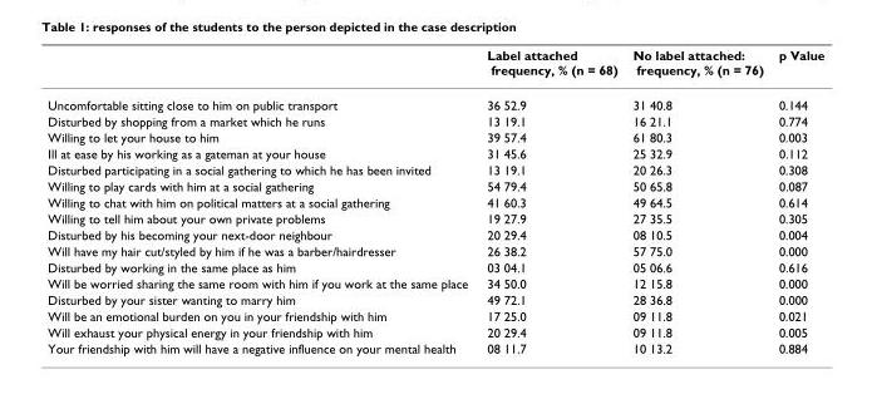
<table><thead><tr><td></td><td>Label attached frequency, % (n = 68)</td><td>No label attached: frequency, % (n = 76)</td><td>p Value</td></tr></thead><tbody><tr><td>Uncomfortable sitting close to him on public transport</td><td>36 52.9</td><td>31 40.8</td><td>0.144</td></tr><tr><td>Disturbed by shopping from a market which he runs</td><td>13 19.1</td><td>16 21.1</td><td>0.774</td></tr><tr><td>Willing to let your house to him</td><td>39 57.4</td><td>61 80.3</td><td>0.003</td></tr><tr><td>Ill at ease by his working as a gateman at your house</td><td>31 45.6</td><td>25 32.9</td><td>0.112</td></tr><tr><td>Disturbed participating in a social gathering to which he has been invited</td><td>13 19.1</td><td>20 26.3</td><td>0.308</td></tr><tr><td>Willing to play cards with him at a social gathering</td><td>54 79.4</td><td>50 65.8</td><td>0.087</td></tr><tr><td>Willing to chat with him on political matters at a social gathering</td><td>41 60.3</td><td>49 64.5</td><td>0.614</td></tr><tr><td>Willing to tell him about your own private problems</td><td>19 27.9</td><td>27 35.5</td><td>0.305</td></tr><tr><td>Disturbed by his becoming your next-door neighbour</td><td>20 29.4</td><td>08 10.5</td><td>0.004</td></tr><tr><td>Will have my hair cut/styled by him if he was a barber/hairdresser</td><td>26 38.2</td><td>57 75.0</td><td>0.000</td></tr><tr><td>Disturbed by working in the same place as him</td><td>03 04.1</td><td>05 06.6</td><td>0.616</td></tr><tr><td>Will be worried sharing the same room with him if you work at the same place</td><td>34 50.0</td><td>12 15.8</td><td>0.000</td></tr><tr><td>Disturbed by your sister wanting to marry him</td><td>49 72.1</td><td>28 36.8</td><td>0.000</td></tr><tr><td>Will be an emotional burden on you in your friendship with him</td><td>17 25.0</td><td>09 11.8</td><td>0.021</td></tr><tr><td>Will exhaust your physical energy in your friendship with him</td><td>20 29.4</td><td>09 11.8</td><td>0.005</td></tr><tr><td>Your friendship with him will have a negative influence on your mental health</td><td>08 11.7</td><td>10 13.2</td><td>0.884</td></tr></tbody></table>